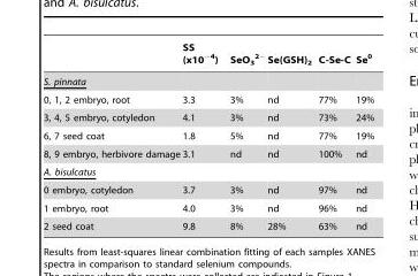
<table><thead><tr><td></td><td>SS (x10<sup>−4</sup>)</td><td>SeO<sub>3</sub> <sup>2−</sup></td><td>Se(GSH)<sub>2</sub></td><td>C-Se-C</td><td>Se<sup>0</sup></td></tr></thead><tbody><tr><td colspan="6">S. pinnata</td></tr><tr><td>0, 1, 2 embryo, root</td><td>3.3</td><td>3%</td><td>nd</td><td>77%</td><td>19%</td></tr><tr><td>3, 4, 5 embryo, cotyledon</td><td>4.1</td><td>3%</td><td>nd</td><td>73%</td><td>24%</td></tr><tr><td>6, 7 seed coat</td><td>1.8</td><td>5%</td><td>nd</td><td>77%</td><td>19%</td></tr><tr><td>8, 9 embryo, herbivore damage</td><td>3.1</td><td>nd</td><td>nd</td><td>100%</td><td>nd</td></tr><tr><td colspan="6">A. bisulcatus</td></tr><tr><td>0 embryo, cotyledon</td><td>3.7</td><td>3%</td><td>nd</td><td>97%</td><td>nd</td></tr><tr><td>1 embryo, root</td><td>4.0</td><td>3%</td><td>nd</td><td>96%</td><td>nd</td></tr><tr><td>2 seed coat</td><td>9.8</td><td>8%</td><td>28%</td><td>63%</td><td>nd</td></tr></tbody></table>